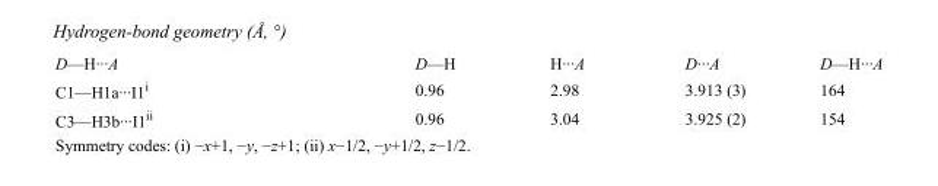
<table><tbody><tr><td>D—H···A</td><td>D—H</td><td>H···A</td><td>D···A</td><td>D—H···A</td></tr><tr><td>C1—H1a···I1<sup>i</sup></td><td>0.96</td><td>2.98</td><td>3.913 (3)</td><td>164</td></tr><tr><td>C3—H3b···I1<sup>ii</sup></td><td>0.96</td><td>3.04</td><td>3.925 (2)</td><td>154</td></tr></tbody></table>